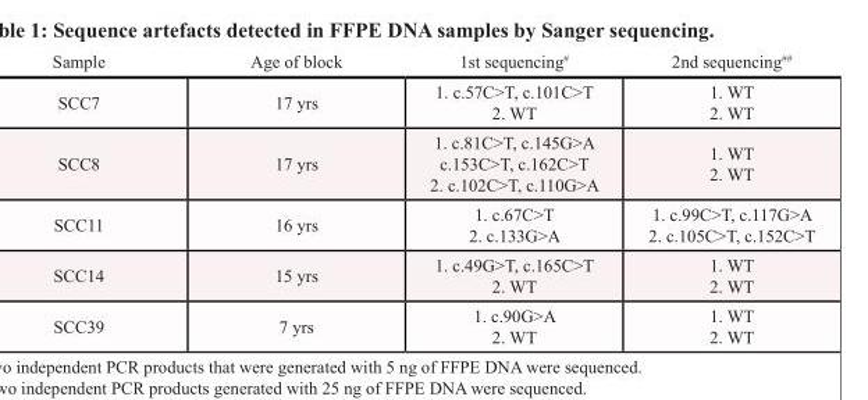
<table><thead><tr><td>Sample</td><td>Age of block</td><td>1st sequencing<sup>#</sup></td><td>2nd sequencing<sup>##</sup></td></tr></thead><tbody><tr><td>SCC7</td><td>17 yrs</td><td>1. c.57C&gt;T, c.101C&gt;T 2. WT</td><td>1. WT 2. WT</td></tr><tr><td>SCC8</td><td>17 yrs</td><td>1. c.81C&gt;T, c.145G&gt;A c.153C&gt;T, c.162C&gt;T 2. c.102C&gt;T, c.110G&gt;A</td><td>1. WT 2. WT</td></tr><tr><td>SCC11</td><td>16 yrs</td><td>1. c.67C&gt;T 2. c.133G&gt;A</td><td>1. c.99C&gt;T, c.117G&gt;A 2. c.105C&gt;T, c.152C&gt;T</td></tr><tr><td>SCC14</td><td>15 yrs</td><td>1. c.49G&gt;T, c.165C&gt;T 2. WT</td><td>1. WT 2. WT</td></tr><tr><td>SCC39</td><td>7 yrs</td><td>1. c.90G&gt;A 2. WT</td><td>1. WT 2. WT</td></tr></tbody></table>